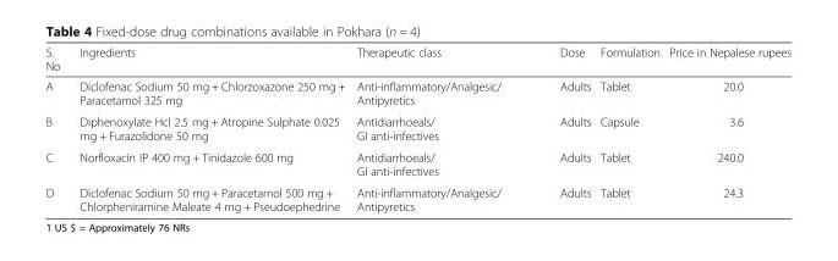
<table><thead><tr><td>S. No</td><td>Ingredients</td><td>Therapeutic class</td><td>Dose</td><td>Formulation</td><td>Price in Nepalese rupees</td></tr></thead><tbody><tr><td>A</td><td>Diclofenac Sodium 50 mg + Chlorzoxazone 250 mg + Paracetamol 325 mg</td><td>Anti-inflammatory/Analgesic/ Antipyretics</td><td>Adults</td><td>Tablet</td><td>20.0</td></tr><tr><td>B</td><td>Diphenoxylate Hcl 2.5 mg + Atropine Sulphate 0.025 mg + Furazolidone 50 mg</td><td>Antidiarrhoeals/ GI anti-infectives</td><td>Adults</td><td>Capsule</td><td>3.6</td></tr><tr><td>C</td><td>Norfloxacin IP 400 mg + Tinidazole 600 mg</td><td>Antidiarrhoeals/ GI anti-infectives</td><td>Adults</td><td>Tablet</td><td>240.0</td></tr><tr><td>D</td><td>Diclofenac Sodium 50 mg + Paracetamol 500 mg + Chlorpheniramine Maleate 4 mg + Pseudoephedrine</td><td>Anti-inflammatory/Analgesic/ Antipyretics</td><td>Adults</td><td>Tablet</td><td>24.3</td></tr></tbody></table>